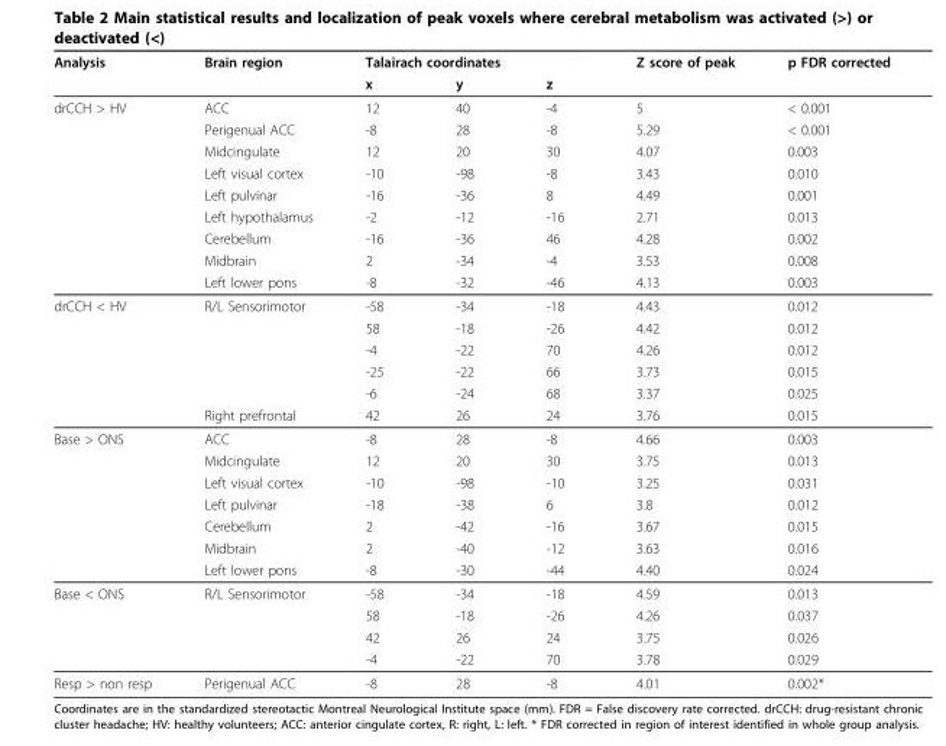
<table><thead><tr><td rowspan="2">Analysis</td><td rowspan="2">Brain region</td><td colspan="3">Talairach coordinates</td><td rowspan="2">Z score of peak</td><td rowspan="2">p FDR corrected</td></tr><tr><td>x</td><td>y</td><td>z</td></tr></thead><tbody><tr><td rowspan="9">drCCH &gt; HV</td><td>ACC</td><td>12</td><td>40</td><td>-4</td><td>5</td><td>&lt; 0.001</td></tr><tr><td>Perigenual ACC</td><td>-8</td><td>28</td><td>-8</td><td>5.29</td><td>&lt; 0.001</td></tr><tr><td>Midcingulate</td><td>12</td><td>20</td><td>30</td><td>4.07</td><td>0.003</td></tr><tr><td>Left visual cortex</td><td>-10</td><td>-98</td><td>-8</td><td>3.43</td><td>0.010</td></tr><tr><td>Left pulvinar</td><td>-16</td><td>-36</td><td>8</td><td>4.49</td><td>0.001</td></tr><tr><td>Left hypothalamus</td><td>-2</td><td>-12</td><td>-16</td><td>2.71</td><td>0.013</td></tr><tr><td>Cerebellum</td><td>-16</td><td>-36</td><td>46</td><td>4.28</td><td>0.002</td></tr><tr><td>Midbrain</td><td>2</td><td>-34</td><td>-4</td><td>3.53</td><td>0.008</td></tr><tr><td>Left lower pons</td><td>-8</td><td>-32</td><td>-46</td><td>4.13</td><td>0.003</td></tr><tr><td rowspan="6">drCCH &lt; HV</td><td>R/L Sensorimotor</td><td>-58</td><td>-34</td><td>-18</td><td>4.43</td><td>0.012</td></tr><tr><td></td><td>58</td><td>-18</td><td>-26</td><td>4.42</td><td>0.012</td></tr><tr><td></td><td>-4</td><td>-22</td><td>70</td><td>4.26</td><td>0.012</td></tr><tr><td></td><td>-25</td><td>-22</td><td>66</td><td>3.73</td><td>0.015</td></tr><tr><td></td><td>-6</td><td>-24</td><td>68</td><td>3.37</td><td>0.025</td></tr><tr><td>Right prefrontal</td><td>42</td><td>26</td><td>24</td><td>3.76</td><td>0.015</td></tr><tr><td rowspan="7">Base &gt; ONS</td><td>ACC</td><td>-8</td><td>28</td><td>-8</td><td>4.66</td><td>0.003</td></tr><tr><td>Midcingulate</td><td>12</td><td>20</td><td>30</td><td>3.75</td><td>0.013</td></tr><tr><td>Left visual cortex</td><td>-10</td><td>-98</td><td>-10</td><td>3.25</td><td>0.031</td></tr><tr><td>Left pulvinar</td><td>-18</td><td>-38</td><td>6</td><td>3.8</td><td>0.012</td></tr><tr><td>Cerebellum</td><td>2</td><td>-42</td><td>-16</td><td>3.67</td><td>0.015</td></tr><tr><td>Midbrain</td><td>2</td><td>-40</td><td>-12</td><td>3.63</td><td>0.016</td></tr><tr><td>Left lower pons</td><td>-8</td><td>-30</td><td>-44</td><td>4.40</td><td>0.024</td></tr><tr><td rowspan="4">Base &lt; ONS</td><td>R/L Sensorimotor</td><td>-58</td><td>-34</td><td>-18</td><td>4.59</td><td>0.013</td></tr><tr><td></td><td>58</td><td>-18</td><td>-26</td><td>4.26</td><td>0.037</td></tr><tr><td></td><td>42</td><td>26</td><td>24</td><td>3.75</td><td>0.026</td></tr><tr><td></td><td>-4</td><td>-22</td><td>70</td><td>3.78</td><td>0.029</td></tr><tr><td>Resp &gt; non resp</td><td>Perigenual ACC</td><td>-8</td><td>28</td><td>-8</td><td>4.01</td><td>0.002*</td></tr></tbody></table>